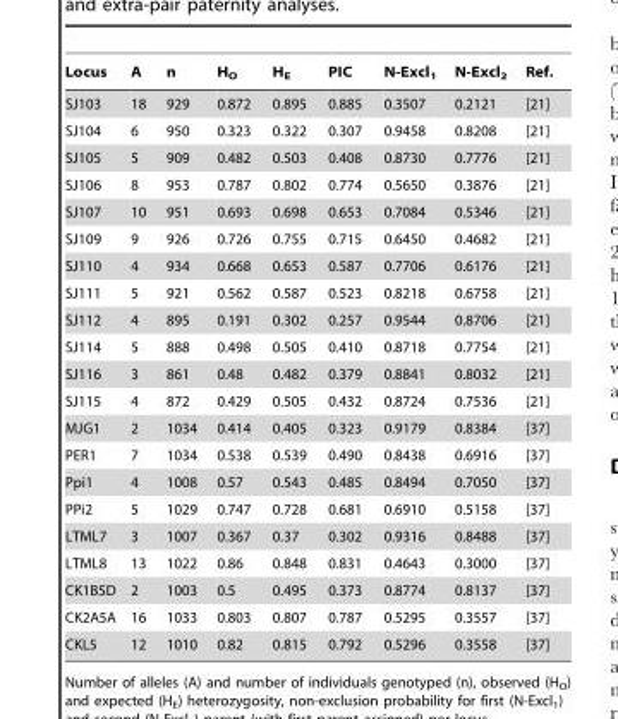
<table><thead><tr><td>Locus</td><td>A</td><td>n</td><td>H<sub>O</sub></td><td>H<sub>E</sub></td><td>PIC</td><td>N-Excl<sub>1</sub></td><td>N-Excl<sub>2</sub></td><td>Ref.</td></tr></thead><tbody><tr><td>SJ103</td><td>18</td><td>929</td><td>0.872</td><td>0.895</td><td>0.885</td><td>0.3507</td><td>0.2121</td><td>[21]</td></tr><tr><td>SJ104</td><td>6</td><td>950</td><td>0.323</td><td>0.322</td><td>0.307</td><td>0.9458</td><td>0.8208</td><td>[21]</td></tr><tr><td>SJ105</td><td>5</td><td>909</td><td>0.482</td><td>0.503</td><td>0.408</td><td>0.8730</td><td>0.7776</td><td>[21]</td></tr><tr><td>SJ106</td><td>8</td><td>953</td><td>0.787</td><td>0.802</td><td>0.774</td><td>0.5650</td><td>0.3876</td><td>[21]</td></tr><tr><td>SJ107</td><td>10</td><td>951</td><td>0.693</td><td>0.698</td><td>0.653</td><td>0.7084</td><td>0.5346</td><td>[21]</td></tr><tr><td>SJ109</td><td>9</td><td>926</td><td>0.726</td><td>0.755</td><td>0.715</td><td>0.6450</td><td>0.4682</td><td>[21]</td></tr><tr><td>SJ110</td><td>4</td><td>934</td><td>0.668</td><td>0.653</td><td>0.587</td><td>0.7706</td><td>0.6176</td><td>[21]</td></tr><tr><td>SJ111</td><td>5</td><td>921</td><td>0.562</td><td>0.587</td><td>0.523</td><td>0.8218</td><td>0.6758</td><td>[21]</td></tr><tr><td>SJ112</td><td>4</td><td>895</td><td>0.191</td><td>0.302</td><td>0.257</td><td>0.9544</td><td>0.8706</td><td>[21]</td></tr><tr><td>SJ114</td><td>5</td><td>888</td><td>0.498</td><td>0.505</td><td>0.410</td><td>0.8718</td><td>0.7754</td><td>[21]</td></tr><tr><td>SJ116</td><td>3</td><td>861</td><td>0.48</td><td>0.482</td><td>0.379</td><td>0.8841</td><td>0.8032</td><td>[21]</td></tr><tr><td>SJ115</td><td>4</td><td>872</td><td>0.429</td><td>0.505</td><td>0.432</td><td>0.8724</td><td>0.7536</td><td>[21]</td></tr><tr><td>MJG1</td><td>2</td><td>1034</td><td>0.414</td><td>0.405</td><td>0.323</td><td>0.9179</td><td>0.8384</td><td>[37]</td></tr><tr><td>PER1</td><td>7</td><td>1034</td><td>0.538</td><td>0.539</td><td>0.490</td><td>0.8438</td><td>0.6916</td><td>[37]</td></tr><tr><td>Ppi1</td><td>4</td><td>1008</td><td>0.57</td><td>0.543</td><td>0.485</td><td>0.8494</td><td>0.7050</td><td>[37]</td></tr><tr><td>PPi2</td><td>5</td><td>1029</td><td>0.747</td><td>0.728</td><td>0.681</td><td>0.6910</td><td>0.5158</td><td>[37]</td></tr><tr><td>LTML7</td><td>3</td><td>1007</td><td>0.367</td><td>0.37</td><td>0.302</td><td>0.9316</td><td>0.8488</td><td>[37]</td></tr><tr><td>LTML8</td><td>13</td><td>1022</td><td>0.86</td><td>0.848</td><td>0.831</td><td>0.4643</td><td>0.3000</td><td>[37]</td></tr><tr><td>CK1B5D</td><td>2</td><td>1003</td><td>0.5</td><td>0.495</td><td>0.373</td><td>0.8774</td><td>0.8137</td><td>[37]</td></tr><tr><td>CK2A5A</td><td>16</td><td>1033</td><td>0.803</td><td>0.807</td><td>0.787</td><td>0.5295</td><td>0.3557</td><td>[37]</td></tr><tr><td>CKL5</td><td>12</td><td>1010</td><td>0.82</td><td>0.815</td><td>0.792</td><td>0.5296</td><td>0.3558</td><td>[37]</td></tr></tbody></table>